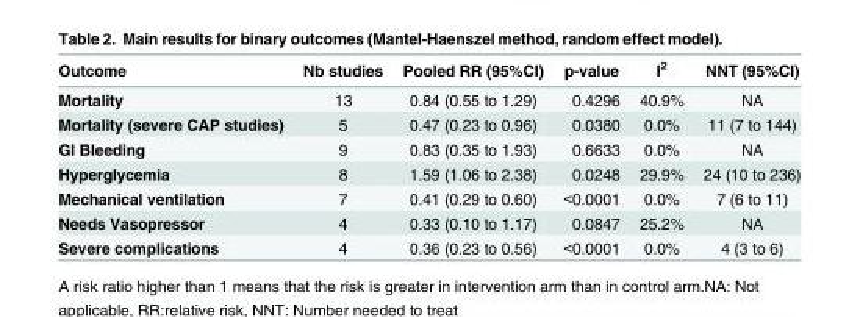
<table><thead><tr><td>Outcome</td><td>Nb studies</td><td>Pooled RR (95%CI)</td><td>p-value</td><td>I<sup>2</sup></td><td>NNT (95%CI)</td></tr></thead><tbody><tr><td>Mortality</td><td>13</td><td>0.84 (0.55 to 1.29)</td><td>0.4296</td><td>40.9%</td><td>NA</td></tr><tr><td>Mortality (severe CAP studies)</td><td>5</td><td>0.47 (0.23 to 0.96)</td><td>0.0380</td><td>0.0%</td><td>11 (7 to 144)</td></tr><tr><td>GI Bleeding</td><td>9</td><td>0.83 (0.35 to 1.93)</td><td>0.6633</td><td>0.0%</td><td>NA</td></tr><tr><td>Hyperglycemia</td><td>8</td><td>1.59 (1.06 to 2.38)</td><td>0.0248</td><td>29.9%</td><td>24 (10 to 236)</td></tr><tr><td>Mechanical ventilation</td><td>7</td><td>0.41 (0.29 to 0.60)</td><td>&lt;0.0001</td><td>0.0%</td><td>7 (6 to 11)</td></tr><tr><td>Needs Vasopressor</td><td>4</td><td>0.33 (0.10 to 1.17)</td><td>0.0847</td><td>25.2%</td><td>NA</td></tr><tr><td>Severe complications</td><td>4</td><td>0.36 (0.23 to 0.56)</td><td>&lt;0.0001</td><td>0.0%</td><td>4 (3 to 6)</td></tr></tbody></table>